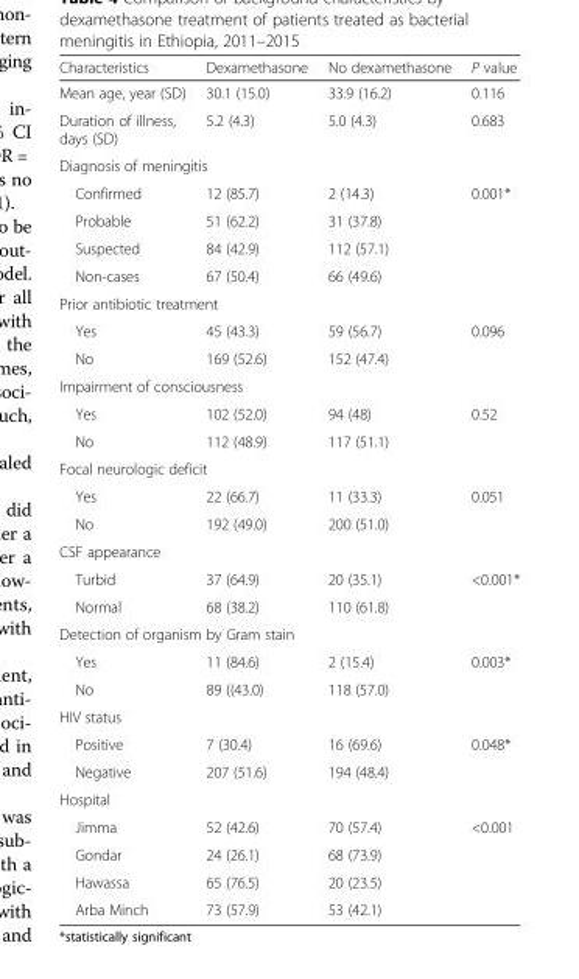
<table><thead><tr><td>Characteristics</td><td>Dexamethasone</td><td>No dexamethasone</td><td>P value</td></tr></thead><tbody><tr><td>Mean age, year (SD)</td><td>30.1 (15.0)</td><td>33.9 (16.2)</td><td>0.116</td></tr><tr><td>Duration of illness, days (SD)</td><td>5.2 (4.3)</td><td>5.0 (4.3)</td><td>0.683</td></tr><tr><td colspan="4">Diagnosis of meningitis</td></tr><tr><td>Confirmed</td><td>12 (85.7)</td><td>2 (14.3)</td><td rowspan="4">0.001*</td></tr><tr><td>Probable</td><td>51 (62.2)</td><td>31 (37.8)</td></tr><tr><td>Suspected</td><td>84 (42.9)</td><td>112 (57.1)</td></tr><tr><td>Non-cases</td><td>67 (50.4)</td><td>66 (49.6)</td></tr><tr><td colspan="4">Prior antibiotic treatment</td></tr><tr><td>Yes</td><td>45 (43.3)</td><td>59 (56.7)</td><td rowspan="2">0.096</td></tr><tr><td>No</td><td>169 (52.6)</td><td>152 (47.4)</td></tr><tr><td colspan="4">Impairment of consciousness</td></tr><tr><td>Yes</td><td>102 (52.0)</td><td>94 (48)</td><td rowspan="2">0.52</td></tr><tr><td>No</td><td>112 (48.9)</td><td>117 (51.1)</td></tr><tr><td colspan="4">Focal neurologic deficit</td></tr><tr><td>Yes</td><td>22 (66.7)</td><td>11 (33.3)</td><td rowspan="2">0.051</td></tr><tr><td>No</td><td>192 (49.0)</td><td>200 (51.0)</td></tr><tr><td colspan="4">CSF appearance</td></tr><tr><td>Turbid</td><td>37 (64.9)</td><td>20 (35.1)</td><td rowspan="2">&lt;0.001*</td></tr><tr><td>Normal</td><td>68 (38.2)</td><td>110 (61.8)</td></tr><tr><td colspan="4">Detection of organism by Gram stain</td></tr><tr><td>Yes</td><td>11 (84.6)</td><td>2 (15.4)</td><td rowspan="2">0.003*</td></tr><tr><td>No</td><td>89 ((43.0)</td><td>118 (57.0)</td></tr><tr><td colspan="4">HIV status</td></tr><tr><td>Positive</td><td>7 (30.4)</td><td>16 (69.6)</td><td rowspan="2">0.048*</td></tr><tr><td>Negative</td><td>207 (51.6)</td><td>194 (48.4)</td></tr><tr><td colspan="4">Hospital</td></tr><tr><td>Jimma</td><td>52 (42.6)</td><td>70 (57.4)</td><td rowspan="4">&lt;0.001</td></tr><tr><td>Gondar</td><td>24 (26.1)</td><td>68 (73.9)</td></tr><tr><td>Hawassa</td><td>65 (76.5)</td><td>20 (23.5)</td></tr><tr><td>Arba Minch</td><td>73 (57.9)</td><td>53 (42.1)</td></tr></tbody></table>